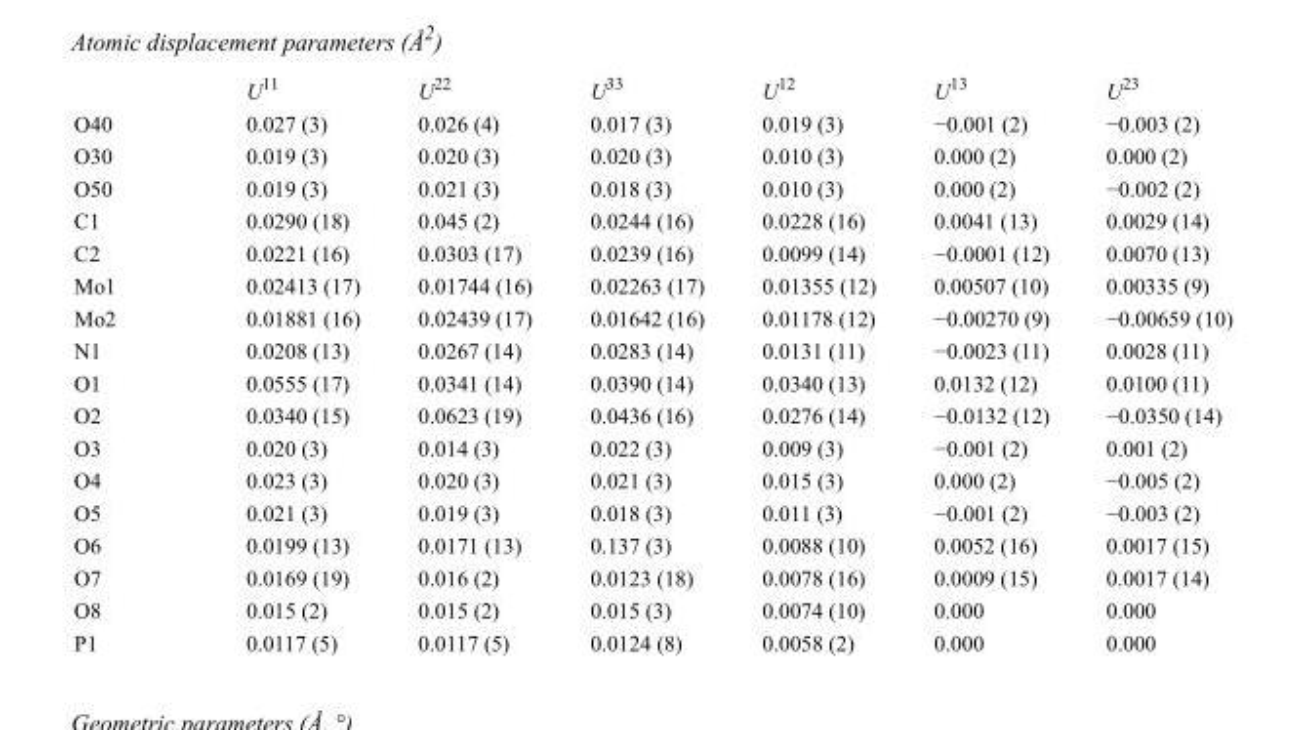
<table><thead><tr><td></td><td>U<sup>11</sup></td><td>U<sup>22</sup></td><td>U<sup>33</sup></td><td>U<sup>12</sup></td><td>U<sup>13</sup></td><td>U<sup>23</sup></td></tr></thead><tbody><tr><td>O40</td><td>0.027 (3)</td><td>0.026 (4)</td><td>0.017 (3)</td><td>0.019 (3)</td><td>−0.001 (2)</td><td>−0.003 (2)</td></tr><tr><td>O30</td><td>0.019 (3)</td><td>0.020 (3)</td><td>0.020 (3)</td><td>0.010 (3)</td><td>0.000 (2)</td><td>0.000 (2)</td></tr><tr><td>O50</td><td>0.019 (3)</td><td>0.021 (3)</td><td>0.018 (3)</td><td>0.010 (3)</td><td>0.000 (2)</td><td>−0.002 (2)</td></tr><tr><td>C1</td><td>0.0290 (18)</td><td>0.045 (2)</td><td>0.0244 (16)</td><td>0.0228 (16)</td><td>0.0041 (13)</td><td>0.0029 (14)</td></tr><tr><td>C2</td><td>0.0221 (16)</td><td>0.0303 (17)</td><td>0.0239 (16)</td><td>0.0099 (14)</td><td>−0.0001 (12)</td><td>0.0070 (13)</td></tr><tr><td>Mo1</td><td>0.02413 (17)</td><td>0.01744 (16)</td><td>0.02263 (17)</td><td>0.01355 (12)</td><td>0.00507 (10)</td><td>0.00335 (9)</td></tr><tr><td>Mo2</td><td>0.01881 (16)</td><td>0.02439 (17)</td><td>0.01642 (16)</td><td>0.01178 (12)</td><td>−0.00270 (9)</td><td>−0.00659 (10)</td></tr><tr><td>N1</td><td>0.0208 (13)</td><td>0.0267 (14)</td><td>0.0283 (14)</td><td>0.0131 (11)</td><td>−0.0023 (11)</td><td>0.0028 (11)</td></tr><tr><td>O1</td><td>0.0555 (17)</td><td>0.0341 (14)</td><td>0.0390 (14)</td><td>0.0340 (13)</td><td>0.0132 (12)</td><td>0.0100 (11)</td></tr><tr><td>O2</td><td>0.0340 (15)</td><td>0.0623 (19)</td><td>0.0436 (16)</td><td>0.0276 (14)</td><td>−0.0132 (12)</td><td>−0.0350 (14)</td></tr><tr><td>O3</td><td>0.020 (3)</td><td>0.014 (3)</td><td>0.022 (3)</td><td>0.009 (3)</td><td>−0.001 (2)</td><td>0.001 (2)</td></tr><tr><td>O4</td><td>0.023 (3)</td><td>0.020 (3)</td><td>0.021 (3)</td><td>0.015 (3)</td><td>0.000 (2)</td><td>−0.005 (2)</td></tr><tr><td>O5</td><td>0.021 (3)</td><td>0.019 (3)</td><td>0.018 (3)</td><td>0.011 (3)</td><td>−0.001 (2)</td><td>−0.003 (2)</td></tr><tr><td>O6</td><td>0.0199 (13)</td><td>0.0171 (13)</td><td>0.137 (3)</td><td>0.0088 (10)</td><td>0.0052 (16)</td><td>0.0017 (15)</td></tr><tr><td>O7</td><td>0.0169 (19)</td><td>0.016 (2)</td><td>0.0123 (18)</td><td>0.0078 (16)</td><td>0.0009 (15)</td><td>0.0017 (14)</td></tr><tr><td>O8</td><td>0.015 (2)</td><td>0.015 (2)</td><td>0.015 (3)</td><td>0.0074 (10)</td><td>0.000</td><td>0.000</td></tr><tr><td>P1</td><td>0.0117 (5)</td><td>0.0117 (5)</td><td>0.0124 (8)</td><td>0.0058 (2)</td><td>0.000</td><td>0.000</td></tr></tbody></table>